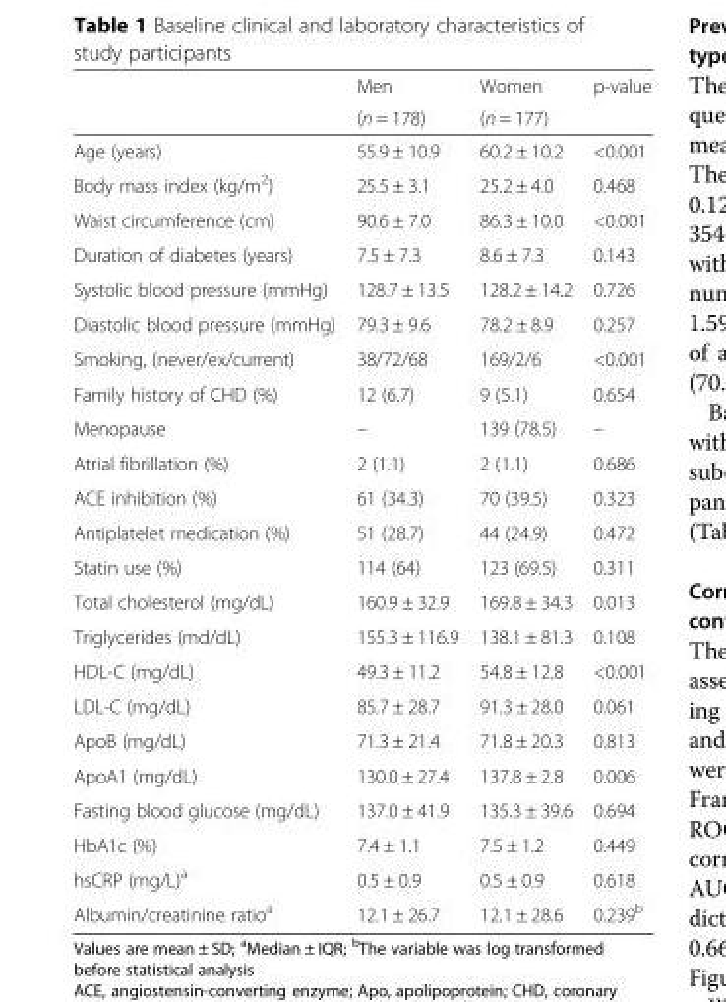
<table><thead><tr><td rowspan="2"></td><td rowspan="2">Men (n = 178)</td><td rowspan="2">Women (n = 177)</td><td rowspan="2">p-value</td></tr><tr></tr></thead><tbody><tr><td>Age (years)</td><td>55.9 ± 10.9</td><td>60.2 ± 10.2</td><td>&lt;0.001</td></tr><tr><td>Body mass index (kg/m<sup>2</sup>)</td><td>25.5 ± 3.1</td><td>25.2 ± 4.0</td><td>0.468</td></tr><tr><td>Waist circumference (cm)</td><td>90.6 ± 7.0</td><td>86.3 ± 10.0</td><td>&lt;0.001</td></tr><tr><td>Duration of diabetes (years)</td><td>7.5 ± 7.3</td><td>8.6 ± 7.3</td><td>0.143</td></tr><tr><td>Systolic blood pressure (mmHg)</td><td>128.7 ± 13.5</td><td>128.2 ± 14.2</td><td>0.726</td></tr><tr><td>Diastolic blood pressure (mmHg)</td><td>79.3 ± 9.6</td><td>78.2 ± 8.9</td><td>0.257</td></tr><tr><td>Smoking, (never/ex/current)</td><td>38/72/68</td><td>169/2/6</td><td>&lt;0.001</td></tr><tr><td>Family history of CHD (%)</td><td>12 (6.7)</td><td>9 (5.1)</td><td>0.654</td></tr><tr><td>Menopause</td><td>–</td><td>139 (78.5)</td><td>–</td></tr><tr><td>Atrial fibrillation (%)</td><td>2 (1.1)</td><td>2 (1.1)</td><td>0.686</td></tr><tr><td>ACE inhibition (%)</td><td>61 (34.3)</td><td>70 (39.5)</td><td>0.323</td></tr><tr><td>Antiplatelet medication (%)</td><td>51 (28.7)</td><td>44 (24.9)</td><td>0.472</td></tr><tr><td>Statin use (%)</td><td>114 (64)</td><td>123 (69.5)</td><td>0.311</td></tr><tr><td>Total cholesterol (mg/dL)</td><td>160.9 ± 32.9</td><td>169.8 ± 34.3</td><td>0.013</td></tr><tr><td>Triglycerides (md/dL)</td><td>155.3 ± 116.9</td><td>138.1 ± 81.3</td><td>0.108</td></tr><tr><td>HDL-C (mg/dL)</td><td>49.3 ± 11.2</td><td>54.8 ± 12.8</td><td>&lt;0.001</td></tr><tr><td>LDL-C (mg/dL)</td><td>85.7 ± 28.7</td><td>91.3 ± 28.0</td><td>0.061</td></tr><tr><td>ApoB (mg/dL)</td><td>71.3 ± 21.4</td><td>71.8 ± 20.3</td><td>0.813</td></tr><tr><td>ApoA1 (mg/dL)</td><td>130.0 ± 27.4</td><td>137.8 ± 2.8</td><td>0.006</td></tr><tr><td>Fasting blood glucose (mg/dL)</td><td>137.0 ± 41.9</td><td>135.3 ± 39.6</td><td>0.694</td></tr><tr><td>HbA1c (%)</td><td>7.4 ± 1.1</td><td>7.5 ± 1.2</td><td>0.449</td></tr><tr><td>hsCRP (mg/L)<sup>a</sup></td><td>0.5 ± 0.9</td><td>0.5 ± 0.9</td><td>0.618</td></tr><tr><td>Albumin/creatinine ratio<sup>a</sup></td><td>12.1 ± 26.7</td><td>12.1 ± 28.6</td><td>0.239<sup>b</sup></td></tr></tbody></table>